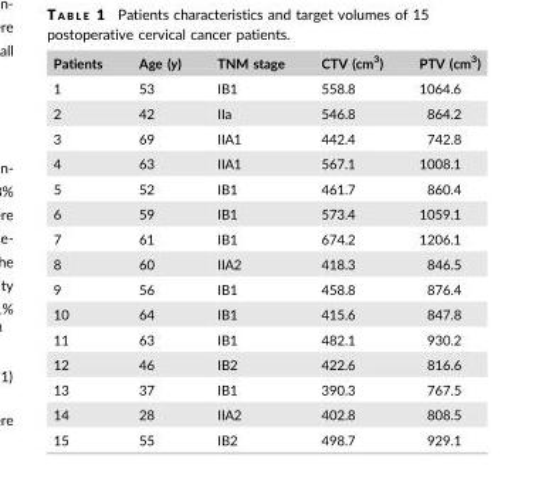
<table><thead><tr><td>Patients</td><td>Age (y)</td><td>TNM stage</td><td>CTV (cm<sup>3</sup>)</td><td>PTV (cm<sup>3</sup>)</td></tr></thead><tbody><tr><td>1</td><td>53</td><td>IB1</td><td>558.8</td><td>1064.6</td></tr><tr><td>2</td><td>42</td><td>IIa</td><td>546.8</td><td>864.2</td></tr><tr><td>3</td><td>69</td><td>IIA1</td><td>442.4</td><td>742.8</td></tr><tr><td>4</td><td>63</td><td>IIA1</td><td>567.1</td><td>1008.1</td></tr><tr><td>5</td><td>52</td><td>IB1</td><td>461.7</td><td>860.4</td></tr><tr><td>6</td><td>59</td><td>IB1</td><td>573.4</td><td>1059.1</td></tr><tr><td>7</td><td>61</td><td>IB1</td><td>674.2</td><td>1206.1</td></tr><tr><td>8</td><td>60</td><td>IIA2</td><td>418.3</td><td>846.5</td></tr><tr><td>9</td><td>56</td><td>IB1</td><td>458.8</td><td>876.4</td></tr><tr><td>10</td><td>64</td><td>IB1</td><td>415.6</td><td>847.8</td></tr><tr><td>11</td><td>63</td><td>IB1</td><td>482.1</td><td>930.2</td></tr><tr><td>12</td><td>46</td><td>IB2</td><td>422.6</td><td>816.6</td></tr><tr><td>13</td><td>37</td><td>IB1</td><td>390.3</td><td>767.5</td></tr><tr><td>14</td><td>28</td><td>IIA2</td><td>402.8</td><td>808.5</td></tr><tr><td>15</td><td>55</td><td>IB2</td><td>498.7</td><td>929.1</td></tr></tbody></table>